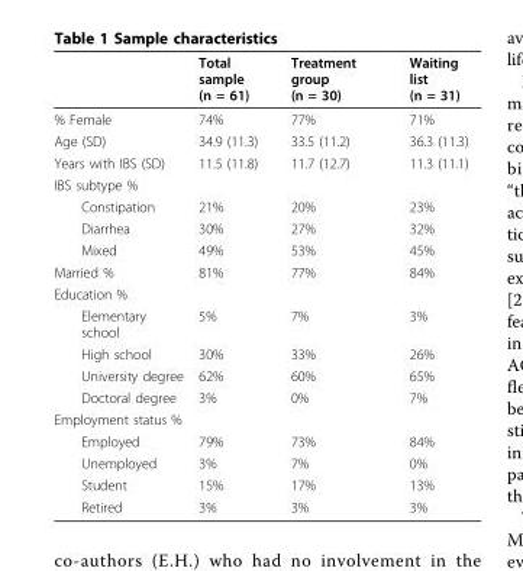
<table><thead><tr><td></td><td>Total sample (n = 61)</td><td>Treatment group (n = 30)</td><td>Waiting list (n = 31)</td></tr></thead><tbody><tr><td>% Female</td><td>74%</td><td>77%</td><td>71%</td></tr><tr><td>Age (SD)</td><td>34.9 (11.3)</td><td>33.5 (11.2)</td><td>36.3 (11.3)</td></tr><tr><td>Years with IBS (SD)</td><td>11.5 (11.8)</td><td>11.7 (12.7)</td><td>11.3 (11.1)</td></tr><tr><td colspan="4">IBS subtype %</td></tr><tr><td>Constipation</td><td>21%</td><td>20%</td><td>23%</td></tr><tr><td>Diarrhea</td><td>30%</td><td>27%</td><td>32%</td></tr><tr><td>Mixed</td><td>49%</td><td>53%</td><td>45%</td></tr><tr><td>Married %</td><td>81%</td><td>77%</td><td>84%</td></tr><tr><td colspan="4">Education %</td></tr><tr><td>Elementary school</td><td>5%</td><td>7%</td><td>3%</td></tr><tr><td>High school</td><td>30%</td><td>33%</td><td>26%</td></tr><tr><td>University degree</td><td>62%</td><td>60%</td><td>65%</td></tr><tr><td>Doctoral degree</td><td>3%</td><td>0%</td><td>7%</td></tr><tr><td colspan="4">Employment status %</td></tr><tr><td>Employed</td><td>79%</td><td>73%</td><td>84%</td></tr><tr><td>Unemployed</td><td>3%</td><td>7%</td><td>0%</td></tr><tr><td>Student</td><td>15%</td><td>17%</td><td>13%</td></tr><tr><td>Retired</td><td>3%</td><td>3%</td><td>3%</td></tr></tbody></table>